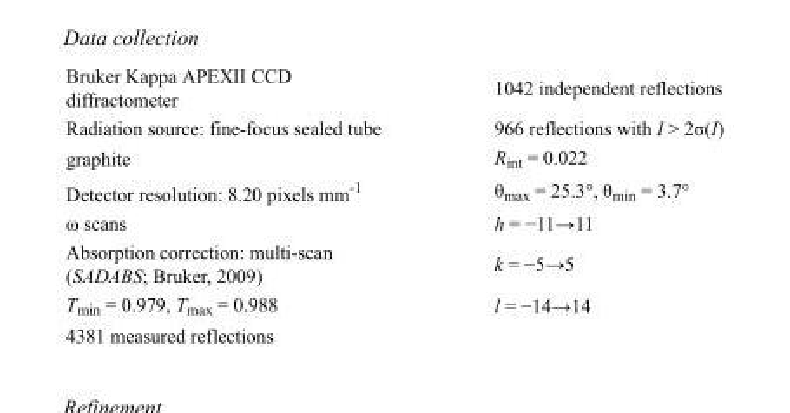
<table><tbody><tr><td>Bruker Kappa APEXII CCD diffractometer</td><td>1042 independent reflections</td></tr><tr><td>Radiation source: fine-focus sealed tube</td><td>966 reflections with I &gt; 2σ(I)</td></tr><tr><td>graphite</td><td>R<sub>int</sub> = 0.022</td></tr><tr><td>Detector resolution: 8.20 pixels mm<sup>-1</sup></td><td>θ<sub>max</sub> = 25.3°, θ<sub>min</sub> = 3.7°</td></tr><tr><td>ω scans</td><td>h = −11→11</td></tr><tr><td>Absorption correction: multi-scan (SADABS; Bruker, 2009)</td><td>k = −5→5</td></tr><tr><td>T<sub>min</sub> = 0.979, T<sub>max</sub> = 0.988</td><td>l = −14→14</td></tr><tr><td>4381 measured reflections</td><td></td></tr></tbody></table>